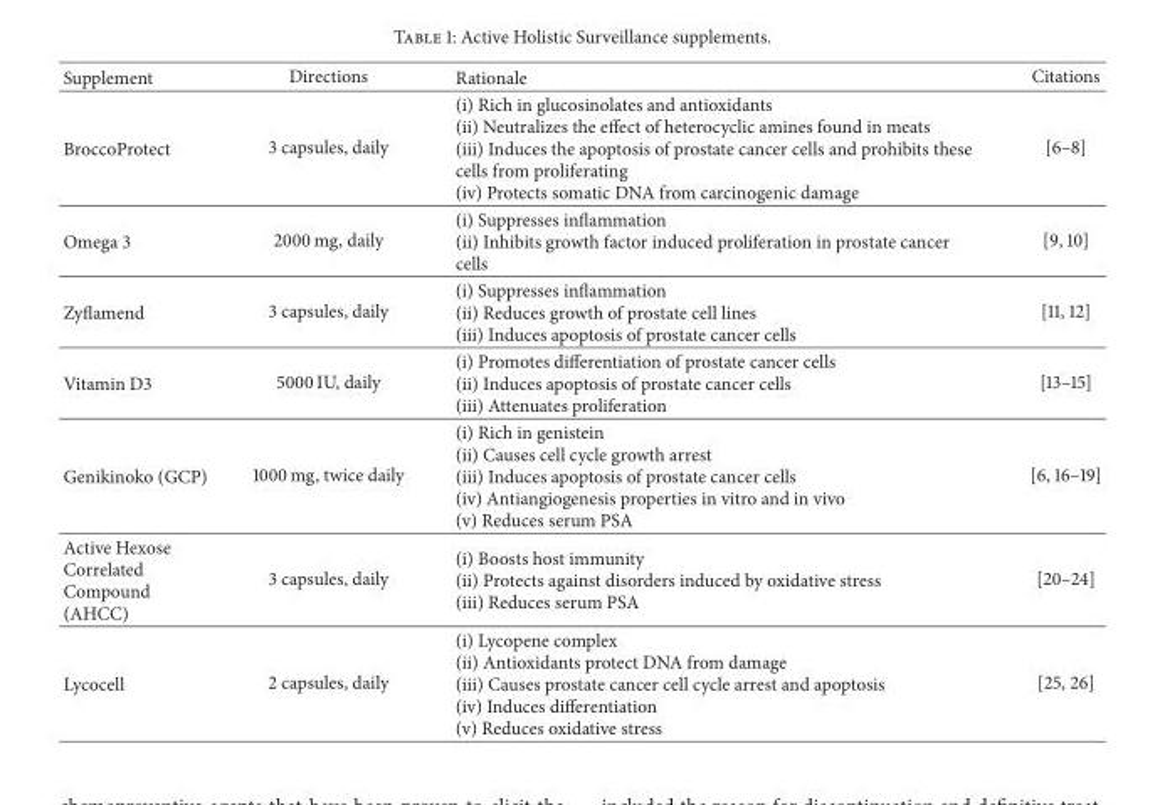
<table><thead><tr><td>Supplement</td><td>Directions</td><td>Rationale</td><td>Citations</td></tr></thead><tbody><tr><td>BroccoProtect</td><td>3 capsules, daily</td><td>(i) Rich in glucosinolates and antioxidants (ii) Neutralizes the effect of heterocyclic amines found in meats (iii) Induces the apoptosis of prostate cancer cells and prohibits these cells from proliferating (iv) Protects somatic DNA from carcinogenic damage</td><td>[6–8]</td></tr><tr><td>Omega 3</td><td>2000 mg, daily</td><td>(i) Suppresses inflammation (ii) Inhibits growth factor induced proliferation in prostate cancer cells</td><td>[9, 10]</td></tr><tr><td>Zyflamend</td><td>3 capsules, daily</td><td>(i) Suppresses inflammation (ii) Reduces growth of prostate cell lines (iii) Induces apoptosis of prostate cancer cells</td><td>[11, 12]</td></tr><tr><td>Vitamin D3</td><td>5000 IU, daily</td><td>(i) Promotes differentiation of prostate cancer cells (ii) Induces apoptosis of prostate cancer cells (iii) Attenuates proliferation</td><td>[13–15]</td></tr><tr><td>Genikinoko (GCP)</td><td>1000 mg, twice daily</td><td>(i) Rich in genistein (ii) Causes cell cycle growth arrest (iii) Induces apoptosis of prostate cancer cells (iv) Antiangiogenesis properties in vitro and in vivo (v) Reduces serum PSA</td><td>[6, 16–19]</td></tr><tr><td>Active Hexose Correlated Compound (AHCC)</td><td>3 capsules, daily</td><td>(i) Boosts host immunity (ii) Protects against disorders induced by oxidative stress (iii) Reduces serum PSA</td><td>[20–24]</td></tr><tr><td>Lycocell</td><td>2 capsules, daily</td><td>(i) Lycopene complex (ii) Antioxidants protect DNA from damage (iii) Causes prostate cancer cell cycle arrest and apoptosis (iv) Induces differentiation (v) Reduces oxidative stress</td><td>[25, 26]</td></tr></tbody></table>